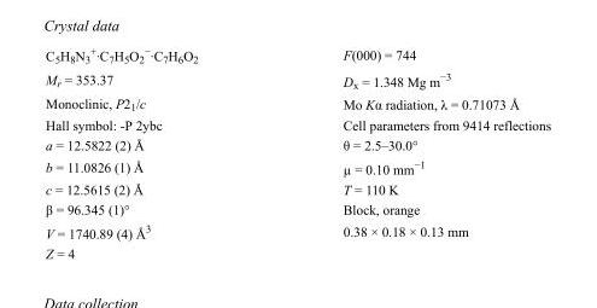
<table><tbody><tr><td>C<sub>5</sub>H<sub>8</sub>N<sub>3</sub> <sup>+</sup>·C<sub>7</sub>H<sub>5</sub>O<sub>2</sub> <sup>−</sup>·C<sub>7</sub>H<sub>6</sub>O<sub>2</sub></td><td>F(000) = 744</td></tr><tr><td>M<sub>r</sub> = 353.37</td><td>D<sub>x</sub> = 1.348 Mg m<sup>−3</sup></td></tr><tr><td>Monoclinic, P2<sub>1</sub>/c</td><td>Mo Kα radiation, λ = 0.71073 Å</td></tr><tr><td>Hall symbol: -P 2ybc</td><td>Cell parameters from 9414 reflections</td></tr><tr><td>a = 12.5822 (2) Å</td><td>θ = 2.5–30.0°</td></tr><tr><td>b = 11.0826 (1) Å</td><td>µ = 0.10 mm<sup>−1</sup></td></tr><tr><td>c = 12.5615 (2) Å</td><td>T = 110 K</td></tr><tr><td>β = 96.345 (1)°</td><td>Block, orange</td></tr><tr><td>V = 1740.89 (4) Å<sup>3</sup></td><td>0.38 × 0.18 × 0.13 mm</td></tr><tr><td>Z = 4</td><td></td></tr></tbody></table>